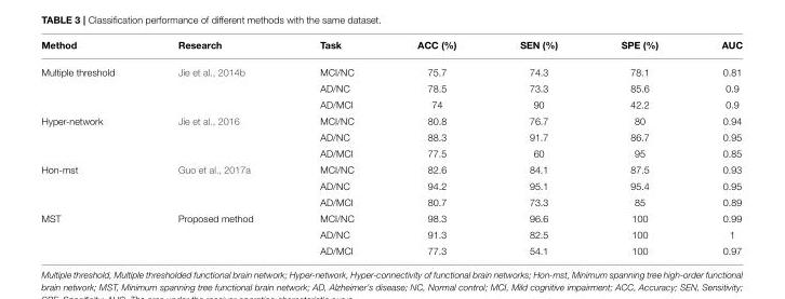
<table><thead><tr><td>Method</td><td>Research</td><td>Task</td><td>ACC (%)</td><td>SEN (%)</td><td>SPE (%)</td><td>AUC</td></tr></thead><tbody><tr><td rowspan="3">Multiple threshold</td><td>Jie et al., 2014b</td><td>MCI/NC</td><td>75.7</td><td>74.3</td><td>78.1</td><td>0.81</td></tr><tr><td></td><td>AD/NC</td><td>78.5</td><td>73.3</td><td>85.6</td><td>0.9</td></tr><tr><td></td><td>AD/MCI</td><td>74</td><td>90</td><td>42.2</td><td>0.9</td></tr><tr><td rowspan="3">Hyper-network</td><td>Jie et al., 2016</td><td>MCI/NC</td><td>80.8</td><td>76.7</td><td>80</td><td>0.94</td></tr><tr><td></td><td>AD/NC</td><td>88.3</td><td>91.7</td><td>86.7</td><td>0.95</td></tr><tr><td></td><td>AD/MCI</td><td>77.5</td><td>60</td><td>95</td><td>0.85</td></tr><tr><td rowspan="3">Hon-mst</td><td>Guo et al., 2017a</td><td>MCI/NC</td><td>82.6</td><td>84.1</td><td>87.5</td><td>0.93</td></tr><tr><td></td><td>AD/NC</td><td>94.2</td><td>95.1</td><td>95.4</td><td>0.95</td></tr><tr><td></td><td>AD/MCI</td><td>80.7</td><td>73.3</td><td>85</td><td>0.89</td></tr><tr><td rowspan="3">MST</td><td>Proposed method</td><td>MCI/NC</td><td>98.3</td><td>96.6</td><td>100</td><td>0.99</td></tr><tr><td></td><td>AD/NC</td><td>91.3</td><td>82.5</td><td>100</td><td>1</td></tr><tr><td></td><td>AD/MCI</td><td>77.3</td><td>54.1</td><td>100</td><td>0.97</td></tr></tbody></table>